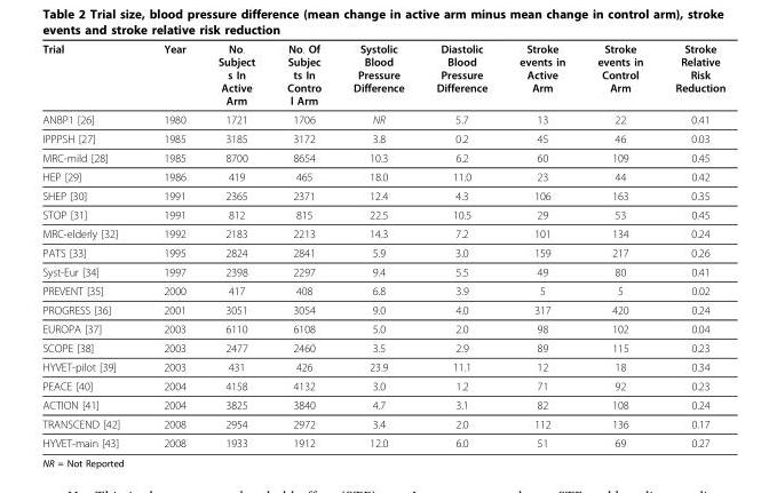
<table><thead><tr><td>Trial</td><td>Year</td><td>No. Subject s In Active Arm</td><td>No. Of Subjec ts In Contro l Arm</td><td>Systolic Blood Pressure Difference</td><td>Diastolic Blood Pressure Difference</td><td>Stroke events in Active Arm</td><td>Stroke events in Control Arm</td><td>Stroke Relative Risk Reduction</td></tr></thead><tbody><tr><td>ANBP1 [26]</td><td>1980</td><td>1721</td><td>1706</td><td>NR</td><td>5.7</td><td>13</td><td>22</td><td>0.41</td></tr><tr><td>IPPPSH [27]</td><td>1985</td><td>3185</td><td>3172</td><td>3.8</td><td>0.2</td><td>45</td><td>46</td><td>0.03</td></tr><tr><td>MRC-mild [28]</td><td>1985</td><td>8700</td><td>8654</td><td>10.3</td><td>6.2</td><td>60</td><td>109</td><td>0.45</td></tr><tr><td>HEP [29]</td><td>1986</td><td>419</td><td>465</td><td>18.0</td><td>11.0</td><td>23</td><td>44</td><td>0.42</td></tr><tr><td>SHEP [30]</td><td>1991</td><td>2365</td><td>2371</td><td>12.4</td><td>4.3</td><td>106</td><td>163</td><td>0.35</td></tr><tr><td>STOP [31]</td><td>1991</td><td>812</td><td>815</td><td>22.5</td><td>10.5</td><td>29</td><td>53</td><td>0.45</td></tr><tr><td>MRC-elderly [32]</td><td>1992</td><td>2183</td><td>2213</td><td>14.3</td><td>7.2</td><td>101</td><td>134</td><td>0.24</td></tr><tr><td>PATS [33]</td><td>1995</td><td>2824</td><td>2841</td><td>5.9</td><td>3.0</td><td>159</td><td>217</td><td>0.26</td></tr><tr><td>Syst-Eur [34]</td><td>1997</td><td>2398</td><td>2297</td><td>9.4</td><td>5.5</td><td>49</td><td>80</td><td>0.41</td></tr><tr><td>PREVENT [35]</td><td>2000</td><td>417</td><td>408</td><td>6.8</td><td>3.9</td><td>5</td><td>5</td><td>0.02</td></tr><tr><td>PROGRESS [36]</td><td>2001</td><td>3051</td><td>3054</td><td>9.0</td><td>4.0</td><td>317</td><td>420</td><td>0.24</td></tr><tr><td>EUROPA [37]</td><td>2003</td><td>6110</td><td>6108</td><td>5.0</td><td>2.0</td><td>98</td><td>102</td><td>0.04</td></tr><tr><td>SCOPE [38]</td><td>2003</td><td>2477</td><td>2460</td><td>3.5</td><td>2.9</td><td>89</td><td>115</td><td>0.23</td></tr><tr><td>HYVET-pilot [39]</td><td>2003</td><td>431</td><td>426</td><td>23.9</td><td>11.1</td><td>12</td><td>18</td><td>0.34</td></tr><tr><td>PEACE [40]</td><td>2004</td><td>4158</td><td>4132</td><td>3.0</td><td>1.2</td><td>71</td><td>92</td><td>0.23</td></tr><tr><td>ACTION [41]</td><td>2004</td><td>3825</td><td>3840</td><td>4.7</td><td>3.1</td><td>82</td><td>108</td><td>0.24</td></tr><tr><td>TRANSCEND [42]</td><td>2008</td><td>2954</td><td>2972</td><td>3.4</td><td>2.0</td><td>112</td><td>136</td><td>0.17</td></tr><tr><td>HYVET-main [43]</td><td>2008</td><td>1933</td><td>1912</td><td>12.0</td><td>6.0</td><td>51</td><td>69</td><td>0.27</td></tr></tbody></table>